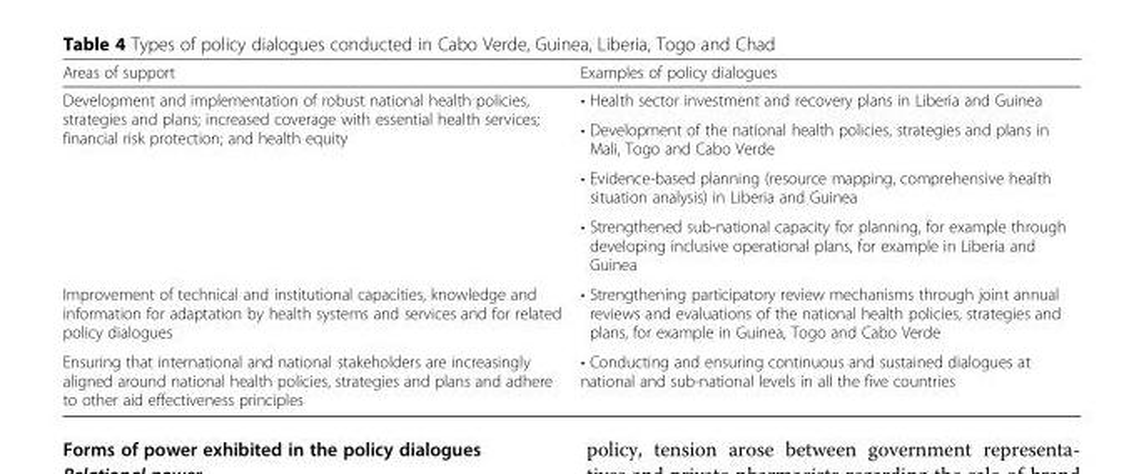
<table><thead><tr><td>Areas of support</td><td>Examples of policy dialogues</td></tr></thead><tbody><tr><td rowspan="4">Development and implementation of robust national health policies, strategies and plans; increased coverage with essential health services; financial risk protection; and health equity</td><td>• Health sector investment and recovery plans in Liberia and Guinea</td></tr><tr><td>• Development of the national health policies, strategies and plans in Mali, Togo and Cabo Verde</td></tr><tr><td>• Evidence-based planning (resource mapping, comprehensive health situation analysis) in Liberia and Guinea</td></tr><tr><td>• Strengthened sub-national capacity for planning, for example through developing inclusive operational plans, for example in Liberia and Guinea</td></tr><tr><td>Improvement of technical and institutional capacities, knowledge and information for adaptation by health systems and services and for related policy dialogues</td><td>• Strengthening participatory review mechanisms through joint annual reviews and evaluations of the national health policies, strategies and plans, for example in Guinea, Togo and Cabo Verde</td></tr><tr><td>Ensuring that international and national stakeholders are increasingly aligned around national health policies, strategies and plans and adhere to other aid effectiveness principles</td><td>• Conducting and ensuring continuous and sustained dialogues at national and sub-national levels in all the five countries</td></tr></tbody></table>